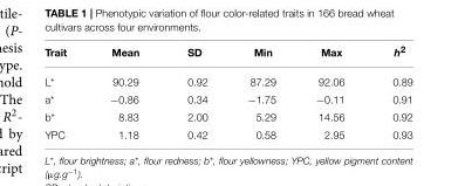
<table><thead><tr><td>Trait</td><td>Mean</td><td>SD</td><td>Min</td><td>Max</td><td>h<sup>2</sup></td></tr></thead><tbody><tr><td>L*</td><td>90.29</td><td>0.92</td><td>87.29</td><td>92.06</td><td>0.89</td></tr><tr><td>a*</td><td>−0.86</td><td>0.34</td><td>−1.75</td><td>−0.11</td><td>0.91</td></tr><tr><td>b*</td><td>8.83</td><td>2.00</td><td>5.29</td><td>14.56</td><td>0.92</td></tr><tr><td>YPC</td><td>1.18</td><td>0.42</td><td>0.58</td><td>2.95</td><td>0.93</td></tr></tbody></table>